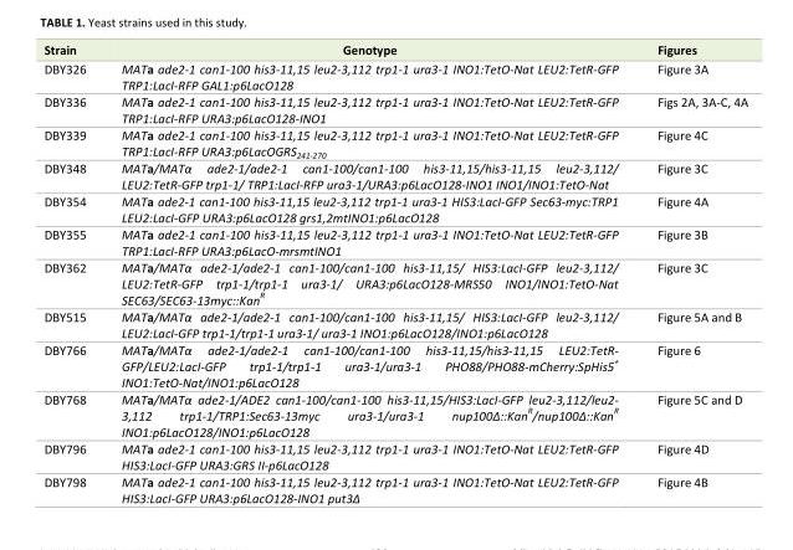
<table><thead><tr><td>Strain</td><td>Genotype</td><td>Figures</td></tr></thead><tbody><tr><td>DBY326</td><td>MATa ade2-1 can1-100 his3-11,15 leu2-3,112 trp1-1 ura3-1 INO1:TetO-Nat LEU2:TetR-GFP TRP1:LacI-RFP GAL1:p6LacO128</td><td>Figure 3A</td></tr><tr><td>DBY336</td><td>MATa ade2-1 can1-100 his3-11,15 leu2-3,112 trp1-1 ura3-1 INO1:TetO-Nat LEU2:TetR-GFP TRP1:LacI-RFP URA3:p6LacO128-INO1</td><td>Figs 2A, 3A-C, 4A</td></tr><tr><td>DBY339</td><td>MATa ade2-1 can1-100 his3-11,15 leu2-3,112 trp1-1 ura3-1 INO1:TetO-Nat LEU2:TetR-GFP TRP1:LacI-RFP URA3:p6LacOGRS<sub>241-270</sub></td><td>Figure 4C</td></tr><tr><td>DBY348</td><td>MATa/MATα ade2-1/ade2-1 can1-100/can1-100 his3-11,15/his3-11,15 leu2-3,112/ LEU2:TetR-GFP trp1-1/ TRP1:LacI-RFP ura3-1/URA3:p6LacO128-INO1 INO1/INO1:TetO-Nat</td><td>Figure 3C</td></tr><tr><td>DBY354</td><td>MATa ade2-1 can1-100 his3-11,15 leu2-3,112 trp1-1 ura3-1 HIS3:LacI-GFP Sec63-myc:TRP1 LEU2:LacI-GFP URA3:p6LacO128 grs1,2mtINO1:p6LacO128</td><td>Figure 4A</td></tr><tr><td>DBY355</td><td>MATa ade2-1 can1-100 his3-11,15 leu2-3,112 trp1-1 ura3-1 INO1:TetO-Nat LEU2:TetR-GFP TRP1:LacI-RFP URA3:p6LacO-mrsmtINO1</td><td>Figure 3B</td></tr><tr><td>DBY362</td><td>MATa/MATα ade2-1/ade2-1 can1-100/can1-100 his3-11,15/ HIS3:LacI-GFP leu2-3,112/ LEU2:TetR-GFP trp1-1/trp1-1 ura3-1/ URA3:p6LacO128-MRS50 INO1/INO1:TetO-Nat SEC63/SEC63-13myc::Kan<sup>R</sup></td><td>Figure 3C</td></tr><tr><td>DBY515</td><td>MATa/MATα ade2-1/ade2-1 can1-100/can1-100 his3-11,15/ HIS3:LacI-GFP leu2-3,112/ LEU2:LacI-GFP trp1-1/trp1-1 ura3-1/ ura3-1 INO1:p6LacO128/INO1:p6LacO128</td><td>Figure 5A and B</td></tr><tr><td>DBY766</td><td>MATa/MATα ade2-1/ade2-1 can1-100/can1-100 his3-11,15/his3-11,15 LEU2:TetR- GFP/LEU2:LacI-GFP trp1-1/trp1-1 ura3-1/ura3-1 PHO88/PHO88-mCherry:SpHis5<sup>+</sup> INO1:TetO-Nat/INO1:p6LacO128</td><td>Figure 6</td></tr><tr><td>DBY768</td><td>MATa/MATα ade2-1/ADE2 can1-100/can1-100 his3-11,15/HIS3:LacI-GFP leu2-3,112/leu2- 3,112 trp1-1/TRP1:Sec63-13myc ura3-1/ura3-1 nup100∆::Kan<sup>R</sup>/nup100∆::Kan<sup>R</sup> INO1:p6LacO128/INO1:p6LacO128</td><td>Figure 5C and D</td></tr><tr><td>DBY796</td><td>MATa ade2-1 can1-100 his3-11,15 leu2-3,112 trp1-1 ura3-1 INO1:TetO-Nat LEU2:TetR-GFP HIS3:LacI-GFP URA3:GRS II-p6LacO128</td><td>Figure 4D</td></tr><tr><td>DBY798</td><td>MATa ade2-1 can1-100 his3-11,15 leu2-3,112 trp1-1 ura3-1 INO1:TetO-Nat LEU2:TetR-GFP HIS3:LacI-GFP URA3:p6LacO128-INO1 put3∆</td><td>Figure 4B</td></tr></tbody></table>